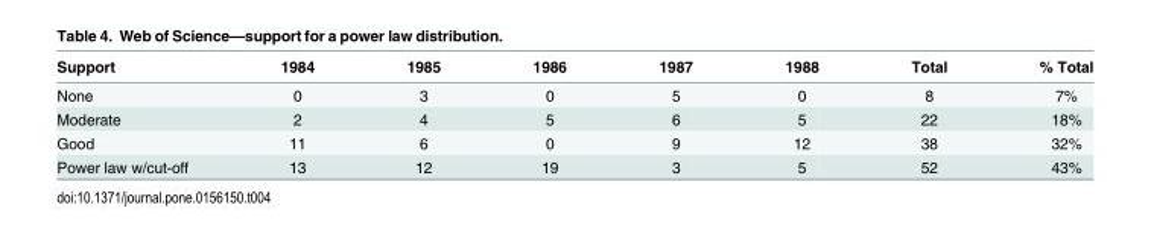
<table><thead><tr><td>Support</td><td>1984</td><td>1985</td><td>1986</td><td>1987</td><td>1988</td><td>Total</td><td>% Total</td></tr></thead><tbody><tr><td>None</td><td>0</td><td>3</td><td>0</td><td>5</td><td>0</td><td>8</td><td>7%</td></tr><tr><td>Moderate</td><td>2</td><td>4</td><td>5</td><td>6</td><td>5</td><td>22</td><td>18%</td></tr><tr><td>Good</td><td>11</td><td>6</td><td>0</td><td>9</td><td>12</td><td>38</td><td>32%</td></tr><tr><td>Power law w/cut-off</td><td>13</td><td>12</td><td>19</td><td>3</td><td>5</td><td>52</td><td>43%</td></tr></tbody></table>